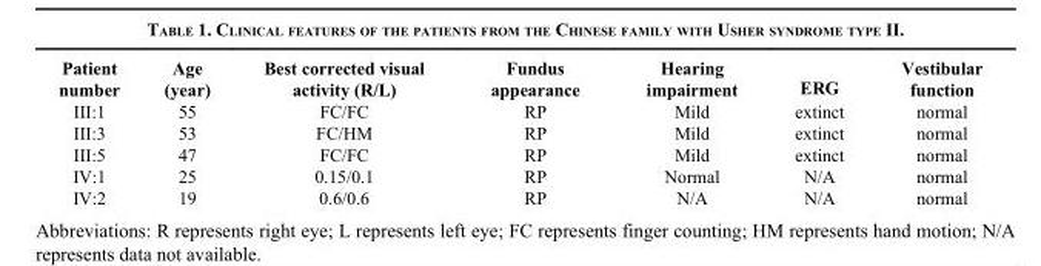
<table><thead><tr><td>Patient number</td><td>Age (year)</td><td>Best corrected visual activity (R/L)</td><td>Fundus appearance</td><td>Hearing impairment</td><td>ERG</td><td>Vestibular function</td></tr></thead><tbody><tr><td>III:1</td><td>55</td><td>FC/FC</td><td>RP</td><td>Mild</td><td>extinct</td><td>normal</td></tr><tr><td>III:3</td><td>53</td><td>FC/HM</td><td>RP</td><td>Mild</td><td>extinct</td><td>normal</td></tr><tr><td>III:5</td><td>47</td><td>FC/FC</td><td>RP</td><td>Mild</td><td>extinct</td><td>normal</td></tr><tr><td>IV:1</td><td>25</td><td>0.15/0.1</td><td>RP</td><td>Normal</td><td>N/A</td><td>normal</td></tr><tr><td>IV:2</td><td>19</td><td>0.6/0.6</td><td>RP</td><td>N/A</td><td>N/A</td><td>normal</td></tr></tbody></table>